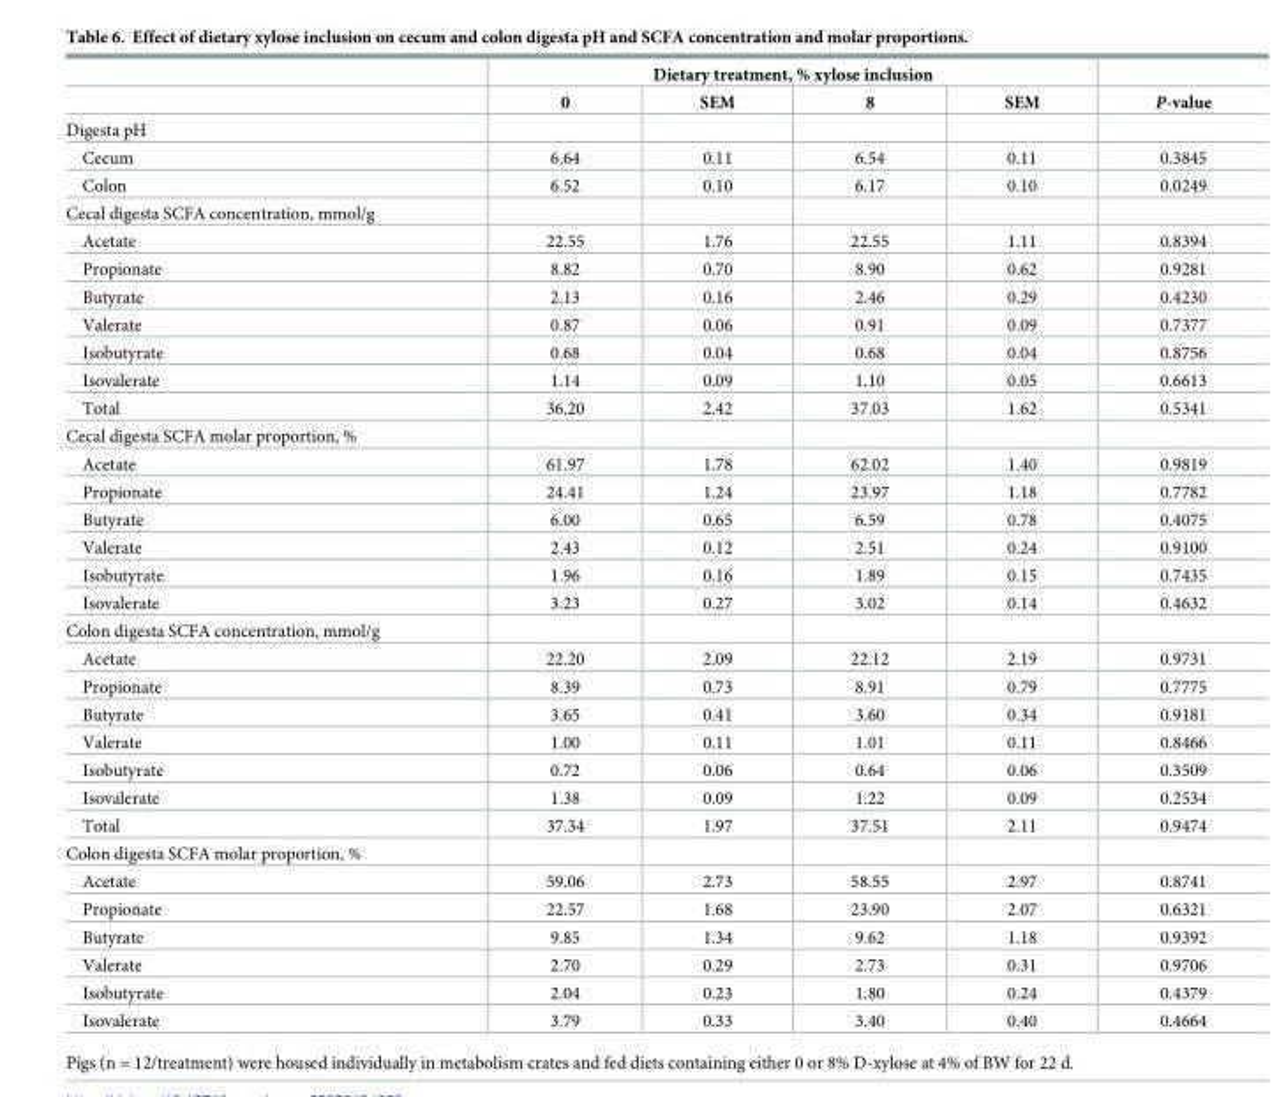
<table><thead><tr><td rowspan="2"></td><td colspan="4">Dietary treatment, % xylose inclusion</td><td rowspan="2">P-value</td></tr><tr><td>0</td><td>SEM</td><td>8</td><td>SEM</td></tr></thead><tbody><tr><td colspan="6">Digesta pH</td></tr><tr><td>Cecum</td><td>6.64</td><td>0.11</td><td>6.54</td><td>0.11</td><td>0.3845</td></tr><tr><td>Colon</td><td>6.52</td><td>0.10</td><td>6.17</td><td>0.10</td><td>0.0249</td></tr><tr><td colspan="6">Cecal digesta SCFA concentration, mmol/g</td></tr><tr><td>Acetate</td><td>22.55</td><td>1.76</td><td>22.55</td><td>1.11</td><td>0.8394</td></tr><tr><td>Propionate</td><td>8.82</td><td>0.70</td><td>8.90</td><td>0.62</td><td>0.9281</td></tr><tr><td>Butyrate</td><td>2.13</td><td>0.16</td><td>2.46</td><td>0.29</td><td>0.4230</td></tr><tr><td>Valerate</td><td>0.87</td><td>0.06</td><td>0.91</td><td>0.09</td><td>0.7377</td></tr><tr><td>Isobutyrate</td><td>0.68</td><td>0.04</td><td>0.68</td><td>0.04</td><td>0.8756</td></tr><tr><td>Isovalerate</td><td>1.14</td><td>0.09</td><td>1.10</td><td>0.05</td><td>0.6613</td></tr><tr><td>Total</td><td>36.20</td><td>2.42</td><td>37.03</td><td>1.62</td><td>0.5341</td></tr><tr><td colspan="6">Cecal digesta SCFA molar proportion, %</td></tr><tr><td>Acetate</td><td>61.97</td><td>1.78</td><td>62.02</td><td>1.40</td><td>0.9819</td></tr><tr><td>Propionate</td><td>24.41</td><td>1.24</td><td>23.97</td><td>1.18</td><td>0.7782</td></tr><tr><td>Butyrate</td><td>6.00</td><td>0.65</td><td>6.59</td><td>0.78</td><td>0.4075</td></tr><tr><td>Valerate</td><td>2.43</td><td>0.12</td><td>2.51</td><td>0.24</td><td>0.9100</td></tr><tr><td>Isobutyrate</td><td>1.96</td><td>0.16</td><td>1.89</td><td>0.15</td><td>0.7435</td></tr><tr><td>Isovalerate</td><td>3.23</td><td>0.27</td><td>3.02</td><td>0.14</td><td>0.4632</td></tr><tr><td colspan="6">Colon digesta SCFA concentration, mmol/g</td></tr><tr><td>Acetate</td><td>22.20</td><td>2.09</td><td>22.12</td><td>2.19</td><td>0.9731</td></tr><tr><td>Propionate</td><td>8.39</td><td>0.73</td><td>8.91</td><td>0.79</td><td>0.7775</td></tr><tr><td>Butyrate</td><td>3.65</td><td>0.41</td><td>3.60</td><td>0.34</td><td>0.9181</td></tr><tr><td>Valerate</td><td>1.00</td><td>0.11</td><td>1.01</td><td>0.11</td><td>0.8466</td></tr><tr><td>Isobutyrate</td><td>0.72</td><td>0.06</td><td>0.64</td><td>0.06</td><td>0.3509</td></tr><tr><td>Isovalerate</td><td>1.38</td><td>0.09</td><td>1.22</td><td>0.09</td><td>0.2534</td></tr><tr><td>Total</td><td>37.34</td><td>1.97</td><td>37.51</td><td>2.11</td><td>0.9474</td></tr><tr><td colspan="6">Colon digesta SCFA molar proportion, %</td></tr><tr><td>Acetate</td><td>59.06</td><td>2.73</td><td>58.55</td><td>2.97</td><td>0.8741</td></tr><tr><td>Propionate</td><td>22.57</td><td>1.68</td><td>23.90</td><td>2.07</td><td>0.6321</td></tr><tr><td>Butyrate</td><td>9.85</td><td>1.34</td><td>9.62</td><td>1.18</td><td>0.9392</td></tr><tr><td>Valerate</td><td>2.70</td><td>0.29</td><td>2.73</td><td>0.31</td><td>0.9706</td></tr><tr><td>Isobutyrate</td><td>2.04</td><td>0.23</td><td>1.80</td><td>0.24</td><td>0.4379</td></tr><tr><td>Isovalerate</td><td>3.79</td><td>0.33</td><td>3.40</td><td>0.40</td><td>0.4664</td></tr></tbody></table>